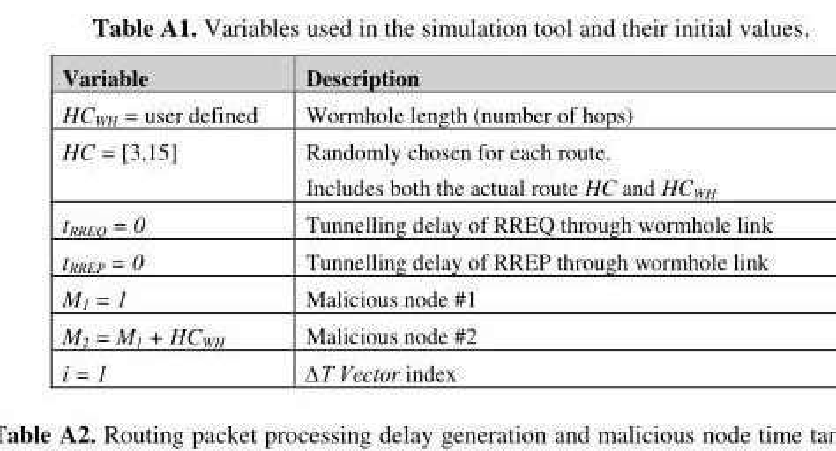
<table><thead><tr><td>Variable</td><td>Description</td></tr></thead><tbody><tr><td>HC<sub>WH</sub> = user defined</td><td>Wormhole length (number of hops)</td></tr><tr><td>HC = [3,15]</td><td>Randomly chosen for each route. Includes both the actual route HC and HC<sub>WH</sub></td></tr><tr><td>t<sub>RREQ</sub> = 0</td><td>Tunnelling delay of RREQ through wormhole link</td></tr><tr><td>tRREP = 0</td><td>Tunnelling delay of RREP through wormhole link</td></tr><tr><td>M<sub>1</sub> = 1</td><td>Malicious node #1</td></tr><tr><td>M<sub>2</sub> = M<sub>1</sub> + HC<sub>WH</sub></td><td>Malicious node #2</td></tr><tr><td>i = 1</td><td>∆T Vector index</td></tr></tbody></table>